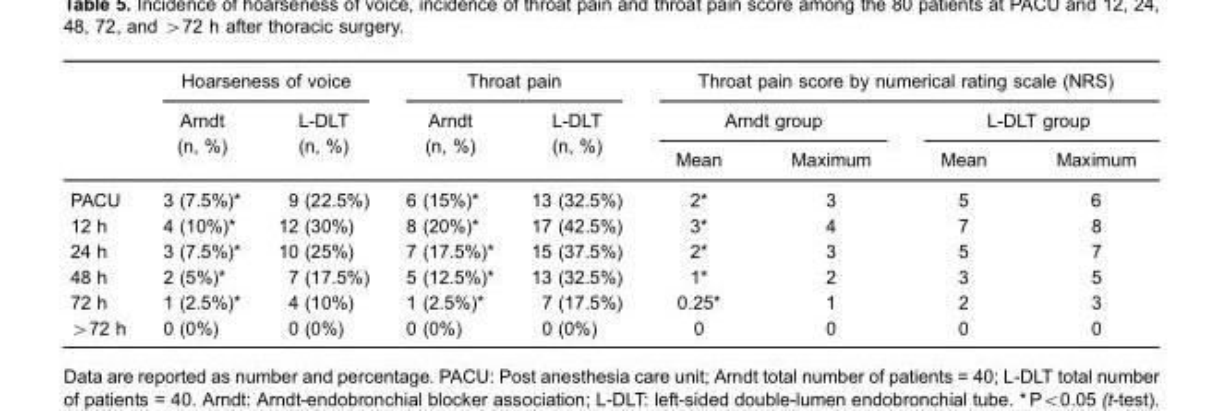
<table><thead><tr><td rowspan="3"></td><td colspan="2">Hoarseness of voice</td><td colspan="2">Throat pain</td><td colspan="4">Throat pain score by numerical rating scale (NRS)</td></tr><tr><td rowspan="2">Arndt (n, %)</td><td rowspan="2">L-DLT (n, %)</td><td rowspan="2">Arndt (n, %)</td><td rowspan="2">L-DLT (n, %)</td><td colspan="2">Arndt group</td><td colspan="2">L-DLT group</td></tr><tr><td>Mean</td><td>Maximum</td><td>Mean</td><td>Maximum</td></tr></thead><tbody><tr><td>PACU</td><td>3 (7.5%)*</td><td>9 (22.5%)</td><td>6 (15%)*</td><td>13 (32.5%)</td><td>2*</td><td>3</td><td>5</td><td>6</td></tr><tr><td>12 h</td><td>4 (10%)*</td><td>12 (30%)</td><td>8 (20%)*</td><td>17 (42.5%)</td><td>3*</td><td>4</td><td>7</td><td>8</td></tr><tr><td>24 h</td><td>3 (7.5%)*</td><td>10 (25%)</td><td>7 (17.5%)*</td><td>15 (37.5%)</td><td>2*</td><td>3</td><td>5</td><td>7</td></tr><tr><td>48 h</td><td>2 (5%)*</td><td>7 (17.5%)</td><td>5 (12.5%)*</td><td>13 (32.5%)</td><td>1*</td><td>2</td><td>3</td><td>5</td></tr><tr><td>72 h</td><td>1 (2.5%)*</td><td>4 (10%)</td><td>1 (2.5%)*</td><td>7 (17.5%)</td><td>0.25*</td><td>1</td><td>2</td><td>3</td></tr><tr><td>&gt;72 h</td><td>0 (0%)</td><td>0 (0%)</td><td>0 (0%)</td><td>0 (0%)</td><td>0</td><td>0</td><td>0</td><td>0</td></tr></tbody></table>